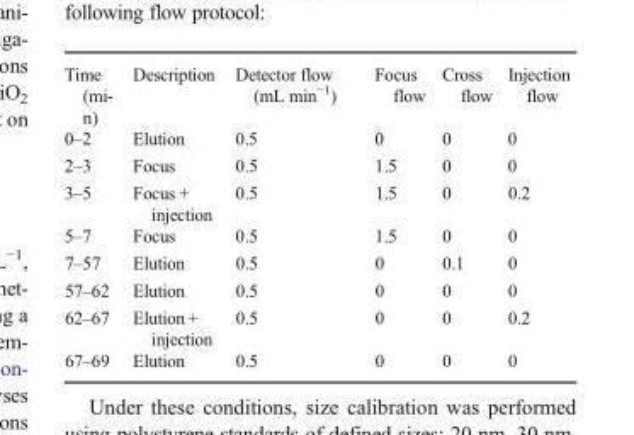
<table><tbody><tr><td>Time (mi- n)</td><td>Description</td><td>Detector flow (mL min<sup>−1</sup>)</td><td>Focus flow</td><td>Cross flow</td><td>Injection flow</td></tr><tr><td>0–2</td><td>Elution</td><td>0.5</td><td>0</td><td>0</td><td>0</td></tr><tr><td>2–3</td><td>Focus</td><td>0.5</td><td>1.5</td><td>0</td><td>0</td></tr><tr><td>3–5</td><td>Focus + injection</td><td>0.5</td><td>1.5</td><td>0</td><td>0.2</td></tr><tr><td>5–7</td><td>Focus</td><td>0.5</td><td>1.5</td><td>0</td><td>0</td></tr><tr><td>7–57</td><td>Elution</td><td>0.5</td><td>0</td><td>0.1</td><td>0</td></tr><tr><td>57–62</td><td>Elution</td><td>0.5</td><td>0</td><td>0</td><td>0</td></tr><tr><td>62–67</td><td>Elution + injection</td><td>0.5</td><td>0</td><td>0</td><td>0.2</td></tr><tr><td>67–69</td><td>Elution</td><td>0.5</td><td>0</td><td>0</td><td>0</td></tr></tbody></table>